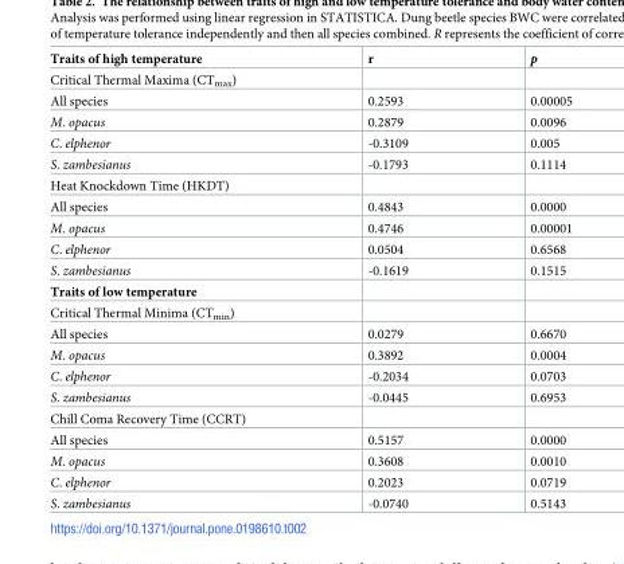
<table><tbody><tr><td>Traits of high temperature</td><td>r</td><td>p</td></tr><tr><td colspan="3">Critical Thermal Maxima (CT<sub>max</sub>)</td></tr><tr><td>All species</td><td>0.2593</td><td>0.00005</td></tr><tr><td>M. opacus</td><td>0.2879</td><td>0.0096</td></tr><tr><td>C. elphenor</td><td>-0.3109</td><td>0.005</td></tr><tr><td>S. zambesianus</td><td>-0.1793</td><td>0.1114</td></tr><tr><td colspan="3">Heat Knockdown Time (HKDT)</td></tr><tr><td>All species</td><td>0.4843</td><td>0.0000</td></tr><tr><td>M. opacus</td><td>0.4746</td><td>0.00001</td></tr><tr><td>C. elphenor</td><td>0.0504</td><td>0.6568</td></tr><tr><td>S. zambesianus</td><td>-0.1619</td><td>0.1515</td></tr><tr><td colspan="3">Traits of low temperature</td></tr><tr><td colspan="3">Critical Thermal Minima (CT<sub>min</sub>)</td></tr><tr><td>All species</td><td>0.0279</td><td>0.6670</td></tr><tr><td>M. opacus</td><td>0.3892</td><td>0.0004</td></tr><tr><td>C. elphenor</td><td>-0.2034</td><td>0.0703</td></tr><tr><td>S. zambesianus</td><td>-0.0445</td><td>0.6953</td></tr><tr><td colspan="3">Chill Coma Recovery Time (CCRT)</td></tr><tr><td>All species</td><td>0.5157</td><td>0.0000</td></tr><tr><td>M. opacus</td><td>0.3608</td><td>0.0010</td></tr><tr><td>C. elphenor</td><td>0.2023</td><td>0.0719</td></tr><tr><td>S. zambesianus</td><td>-0.0740</td><td>0.5143</td></tr></tbody></table>